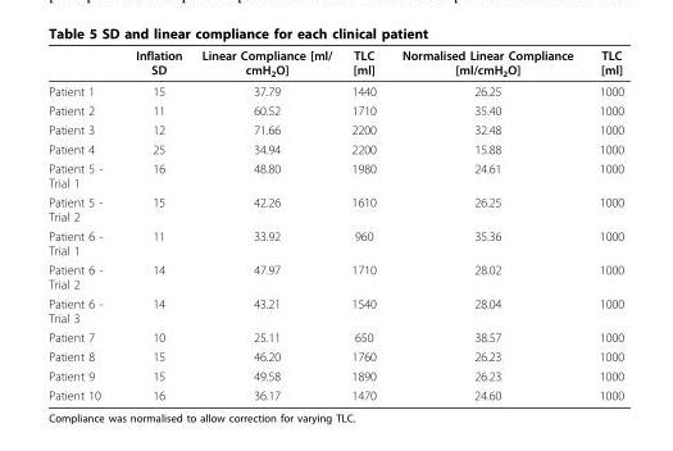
<table><thead><tr><td></td><td>Inflation SD</td><td>Linear Compliance [ml/ cmH<sub>2</sub>O]</td><td>TLC [ml]</td><td>Normalised Linear Compliance [ml/cmH<sub>2</sub>O]</td><td>TLC [ml]</td></tr></thead><tbody><tr><td>Patient 1</td><td>15</td><td>37.79</td><td>1440</td><td>26.25</td><td>1000</td></tr><tr><td>Patient 2</td><td>11</td><td>60.52</td><td>1710</td><td>35.40</td><td>1000</td></tr><tr><td>Patient 3</td><td>12</td><td>71.66</td><td>2200</td><td>32.48</td><td>1000</td></tr><tr><td>Patient 4</td><td>25</td><td>34.94</td><td>2200</td><td>15.88</td><td>1000</td></tr><tr><td>Patient 5 - Trial 1</td><td>16</td><td>48.80</td><td>1980</td><td>24.61</td><td>1000</td></tr><tr><td>Patient 5 - Trial 2</td><td>15</td><td>42.26</td><td>1610</td><td>26.25</td><td>1000</td></tr><tr><td>Patient 6 - Trial 1</td><td>11</td><td>33.92</td><td>960</td><td>35.36</td><td>1000</td></tr><tr><td>Patient 6 - Trial 2</td><td>14</td><td>47.97</td><td>1710</td><td>28.02</td><td>1000</td></tr><tr><td>Patient 6 - Trial 3</td><td>14</td><td>43.21</td><td>1540</td><td>28.04</td><td>1000</td></tr><tr><td>Patient 7</td><td>10</td><td>25.11</td><td>650</td><td>38.57</td><td>1000</td></tr><tr><td>Patient 8</td><td>15</td><td>46.20</td><td>1760</td><td>26.23</td><td>1000</td></tr><tr><td>Patient 9</td><td>15</td><td>49.58</td><td>1890</td><td>26.23</td><td>1000</td></tr><tr><td>Patient 10</td><td>16</td><td>36.17</td><td>1470</td><td>24.60</td><td>1000</td></tr></tbody></table>